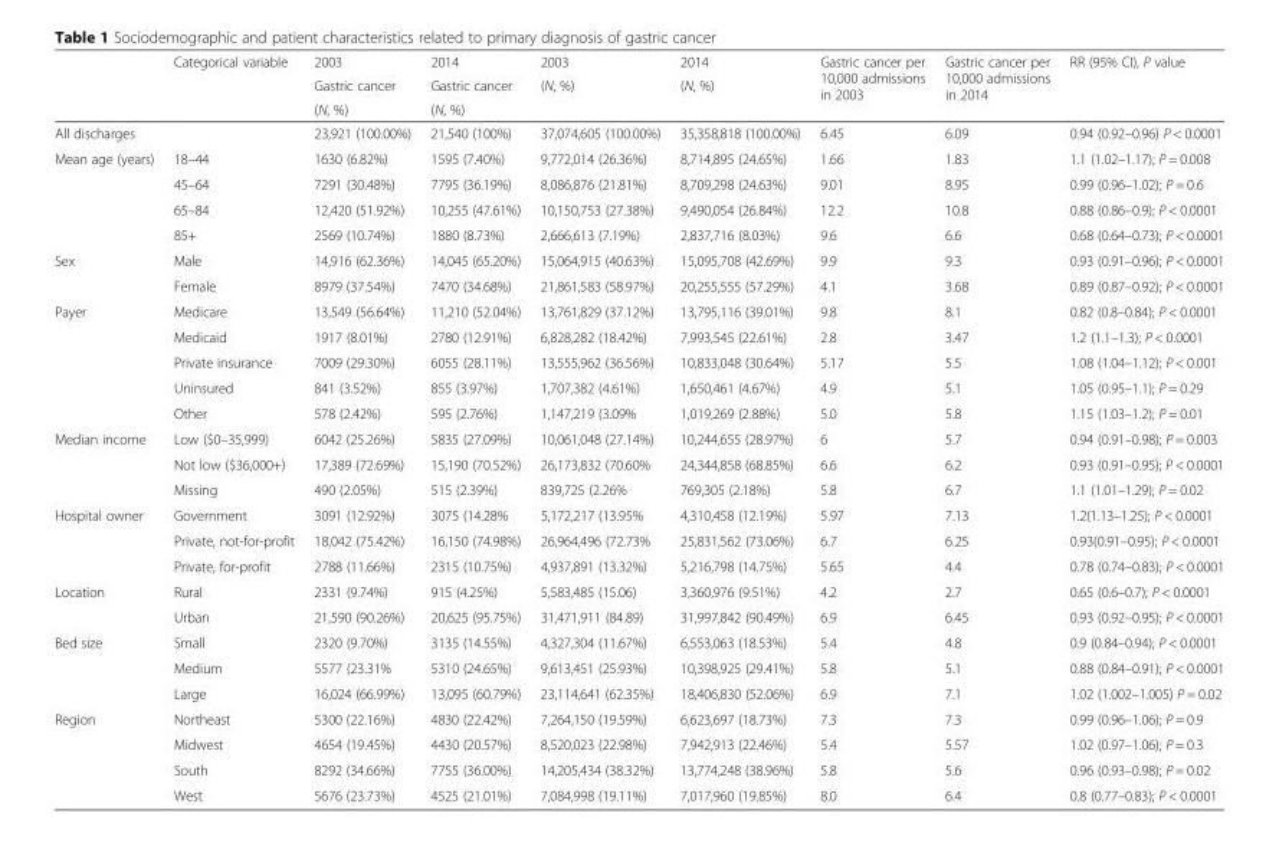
<table><thead><tr><td rowspan="3"></td><td rowspan="3">Categorical variable</td><td rowspan="3">2003 Gastric cancer (N, %)</td><td rowspan="3">2014 Gastric cancer (N, %)</td><td rowspan="3">2003 (N, %)</td><td rowspan="3">2014 (N, %)</td><td rowspan="3">Gastric cancer per 10,000 admissions in 2003</td><td rowspan="3">Gastric cancer per 10,000 admissions in 2014</td><td rowspan="3">RR (95% CI), P value</td></tr><tr></tr><tr></tr></thead><tbody><tr><td>All discharges</td><td></td><td>23,921 (100.00%)</td><td>21,540 (100%)</td><td>37,074,605 (100.00%)</td><td>35,358,818 (100.00%)</td><td>6.45</td><td>6.09</td><td>0.94 (0.92–0.96) P &lt; 0.0001</td></tr><tr><td rowspan="4">Mean age (years)</td><td>18–44</td><td>1630 (6.82%)</td><td>1595 (7.40%)</td><td>9,772,014 (26.36%)</td><td>8,714,895 (24.65%)</td><td>1.66</td><td>1.83</td><td>1.1 (1.02–1.17); P = 0.008</td></tr><tr><td>45–64</td><td>7291 (30.48%)</td><td>7795 (36.19%)</td><td>8,086,876 (21.81%)</td><td>8,709,298 (24.63%)</td><td>9.01</td><td>8.95</td><td>0.99 (0.96–1.02); P = 0.6</td></tr><tr><td>65–84</td><td>12,420 (51.92%)</td><td>10,255 (47.61%)</td><td>10,150,753 (27.38%)</td><td>9,490,054 (26.84%)</td><td>12.2</td><td>10.8</td><td>0.88 (0.86–0.9); P &lt; 0.0001</td></tr><tr><td>85+</td><td>2569 (10.74%)</td><td>1880 (8.73%)</td><td>2,666,613 (7.19%)</td><td>2,837,716 (8.03%)</td><td>9.6</td><td>6.6</td><td>0.68 (0.64–0.73); P &lt; 0.0001</td></tr><tr><td rowspan="2">Sex</td><td>Male</td><td>14,916 (62.36%)</td><td>14,045 (65.20%)</td><td>15,064,915 (40.63%)</td><td>15,095,708 (42.69%)</td><td>9.9</td><td>9.3</td><td>0.93 (0.91–0.96); P &lt; 0.0001</td></tr><tr><td>Female</td><td>8979 (37.54%)</td><td>7470 (34.68%)</td><td>21,861,583 (58.97%)</td><td>20,255,555 (57.29%)</td><td>4.1</td><td>3.68</td><td>0.89 (0.87–0.92); P &lt; 0.0001</td></tr><tr><td rowspan="5">Payer</td><td>Medicare</td><td>13,549 (56.64%)</td><td>11,210 (52.04%)</td><td>13,761,829 (37.12%)</td><td>13,795,116 (39.01%)</td><td>9.8</td><td>8.1</td><td>0.82 (0.8–0.84); P &lt; 0.0001</td></tr><tr><td>Medicaid</td><td>1917 (8.01%)</td><td>2780 (12.91%)</td><td>6,828,282 (18.42%)</td><td>7,993,545 (22.61%)</td><td>2.8</td><td>3.47</td><td>1.2 (1.1–1.3); P &lt; 0.0001</td></tr><tr><td>Private insurance</td><td>7009 (29.30%)</td><td>6055 (28.11%)</td><td>13,555,962 (36.56%)</td><td>10,833,048 (30.64%)</td><td>5.17</td><td>5.5</td><td>1.08 (1.04–1.12); P &lt; 0.001</td></tr><tr><td>Uninsured</td><td>841 (3.52%)</td><td>855 (3.97%)</td><td>1,707,382 (4.61%)</td><td>1,650,461 (4.67%)</td><td>4.9</td><td>5.1</td><td>1.05 (0.95–1.1); P = 0.29</td></tr><tr><td>Other</td><td>578 (2.42%)</td><td>595 (2.76%)</td><td>1,147,219 (3.09%</td><td>1,019,269 (2.88%)</td><td>5.0</td><td>5.8</td><td>1.15 (1.03–1.2); P = 0.01</td></tr><tr><td rowspan="3">Median income</td><td>Low ($0–35,999)</td><td>6042 (25.26%)</td><td>5835 (27.09%)</td><td>10,061,048 (27.14%)</td><td>10,244,655 (28.97%)</td><td>6</td><td>5.7</td><td>0.94 (0.91–0.98); P = 0.003</td></tr><tr><td>Not low ($36,000+)</td><td>17,389 (72.69%)</td><td>15,190 (70.52%)</td><td>26,173,832 (70.60%</td><td>24,344,858 (68.85%)</td><td>6.6</td><td>6.2</td><td>0.93 (0.91–0.95); P &lt; 0.0001</td></tr><tr><td>Missing</td><td>490 (2.05%)</td><td>515 (2.39%)</td><td>839,725 (2.26%</td><td>769,305 (2.18%)</td><td>5.8</td><td>6.7</td><td>1.1 (1.01–1.29); P = 0.02</td></tr><tr><td rowspan="3">Hospital owner</td><td>Government</td><td>3091 (12.92%)</td><td>3075 (14.28%</td><td>5,172,217 (13.95%</td><td>4,310,458 (12.19%)</td><td>5.97</td><td>7.13</td><td>1.2(1.13–1.25); P &lt; 0.0001</td></tr><tr><td>Private, not-for-profit</td><td>18,042 (75.42%)</td><td>16,150 (74.98%)</td><td>26,964,496 (72.73%</td><td>25,831,562 (73.06%)</td><td>6.7</td><td>6.25</td><td>0.93(0.91–0.95); P &lt; 0.0001</td></tr><tr><td>Private, for-profit</td><td>2788 (11.66%)</td><td>2315 (10.75%)</td><td>4,937,891 (13.32%)</td><td>5,216,798 (14.75%)</td><td>5.65</td><td>4.4</td><td>0.78 (0.74–0.83); P &lt; 0.0001</td></tr><tr><td rowspan="2">Location</td><td>Rural</td><td>2331 (9.74%)</td><td>915 (4.25%)</td><td>5,583,485 (15.06)</td><td>3,360,976 (9.51%)</td><td>4.2</td><td>2.7</td><td>0.65 (0.6–0.7); P &lt; 0.0001</td></tr><tr><td>Urban</td><td>21,590 (90.26%)</td><td>20,625 (95.75%)</td><td>31,471,911 (84.89)</td><td>31,997,842 (90.49%)</td><td>6.9</td><td>6.45</td><td>0.93 (0.92–0.95); P &lt; 0.0001</td></tr><tr><td rowspan="3">Bed size</td><td>Small</td><td>2320 (9.70%)</td><td>3135 (14.55%)</td><td>4,327,304 (11.67%)</td><td>6,553,063 (18.53%)</td><td>5.4</td><td>4.8</td><td>0.9 (0.84–0.94); P &lt; 0.0001</td></tr><tr><td>Medium</td><td>5577 (23.31%</td><td>5310 (24.65%)</td><td>9,613,451 (25.93%)</td><td>10,398,925 (29.41%)</td><td>5.8</td><td>5.1</td><td>0.88 (0.84–0.91); P &lt; 0.0001</td></tr><tr><td>Large</td><td>16,024 (66.99%)</td><td>13,095 (60.79%)</td><td>23,114,641 (62.35%)</td><td>18,406,830 (52.06%)</td><td>6.9</td><td>7.1</td><td>1.02 (1.002–1.005) P = 0.02</td></tr><tr><td rowspan="4">Region</td><td>Northeast</td><td>5300 (22.16%)</td><td>4830 (22.42%)</td><td>7,264,150 (19.59%)</td><td>6,623,697 (18.73%)</td><td>7.3</td><td>7.3</td><td>0.99 (0.96–1.06); P = 0.9</td></tr><tr><td>Midwest</td><td>4654 (19.45%)</td><td>4430 (20.57%)</td><td>8,520,023 (22.98%)</td><td>7,942,913 (22.46%)</td><td>5.4</td><td>5.57</td><td>1.02 (0.97–1.06); P = 0.3</td></tr><tr><td>South</td><td>8292 (34.66%)</td><td>7755 (36.00%)</td><td>14,205,434 (38.32%)</td><td>13,774,248 (38.96%)</td><td>5.8</td><td>5.6</td><td>0.96 (0.93–0.98); P = 0.02</td></tr><tr><td>West</td><td>5676 (23.73%)</td><td>4525 (21.01%)</td><td>7,084,998 (19.11%)</td><td>7,017,960 (19.85%)</td><td>8.0</td><td>6.4</td><td>0.8 (0.77–0.83); P &lt; 0.0001</td></tr></tbody></table>